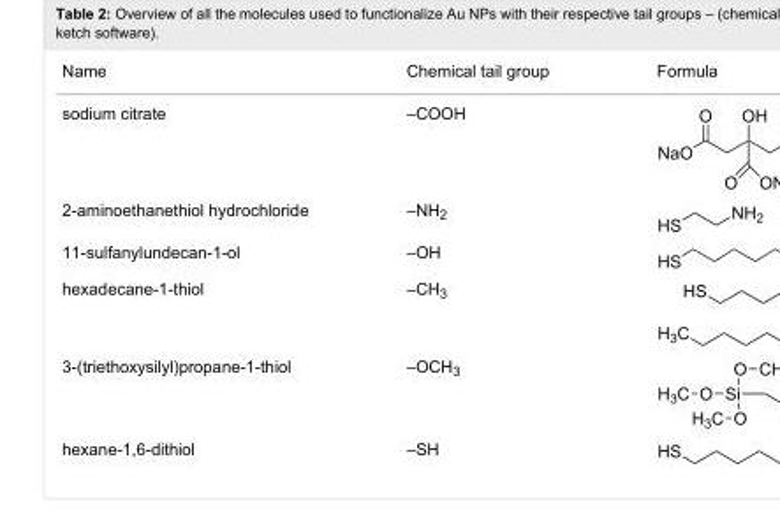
<table><tbody><tr><td>Name</td><td>Chemical tail group</td><td>Formula</td></tr><tr><td>sodium citrate</td><td>–COOH</td><td></td></tr><tr><td>2-aminoethanethiol hydrochloride</td><td>–NH<sub>2</sub></td><td></td></tr><tr><td>11-sulfanylundecan-1-ol</td><td>–OH</td><td></td></tr><tr><td>hexadecane-1-thiol</td><td>–CH<sub>3</sub></td><td></td></tr><tr><td>3-(triethoxysilyl)propane-1-thiol</td><td>–OCH<sub>3</sub></td><td></td></tr><tr><td>hexane-1,6-dithiol</td><td>–SH</td><td></td></tr></tbody></table>